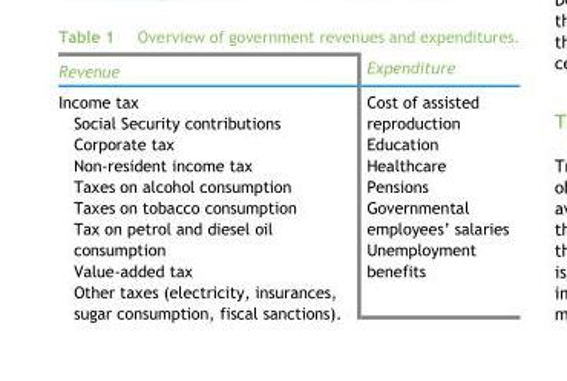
<table><thead><tr><td>Revenue</td><td>Expenditure</td></tr></thead><tbody><tr><td>Income tax Social Security contributions Corporate tax Non-resident income tax Taxes on alcohol consumption Taxes on tobacco consumption Tax on petrol and diesel oil consumption Value-added tax Other taxes (electricity, insurances, sugar consumption, fiscal sanctions).</td><td>Cost of assisted reproduction Education Healthcare Pensions Governmental employees’ salaries Unemployment benefits</td></tr></tbody></table>